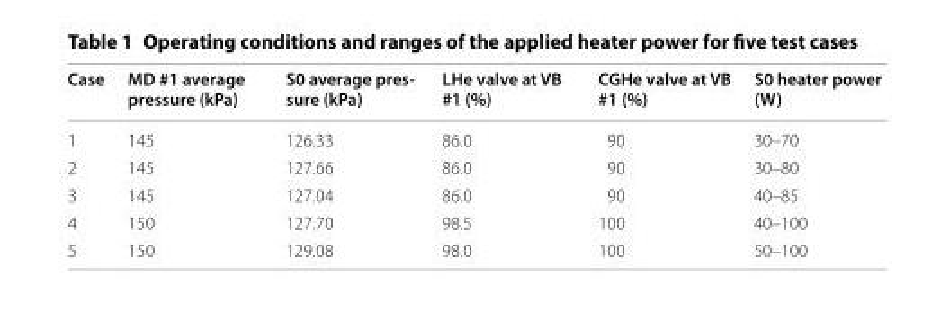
<table><thead><tr><td>Case</td><td>MD #1 average pressure (kPa)</td><td>S0 average pres‑ sure (kPa)</td><td>LHe valve at VB #1 (%)</td><td>CGHe valve at VB #1 (%)</td><td>S0 heater power (W)</td></tr></thead><tbody><tr><td>1</td><td>145</td><td>126.33</td><td>86.0</td><td>90</td><td>30–70</td></tr><tr><td>2</td><td>145</td><td>127.66</td><td>86.0</td><td>90</td><td>30–80</td></tr><tr><td>3</td><td>145</td><td>127.04</td><td>86.0</td><td>90</td><td>40–85</td></tr><tr><td>4</td><td>150</td><td>127.70</td><td>98.5</td><td>100</td><td>40–100</td></tr><tr><td>5</td><td>150</td><td>129.08</td><td>98.0</td><td>100</td><td>50–100</td></tr></tbody></table>